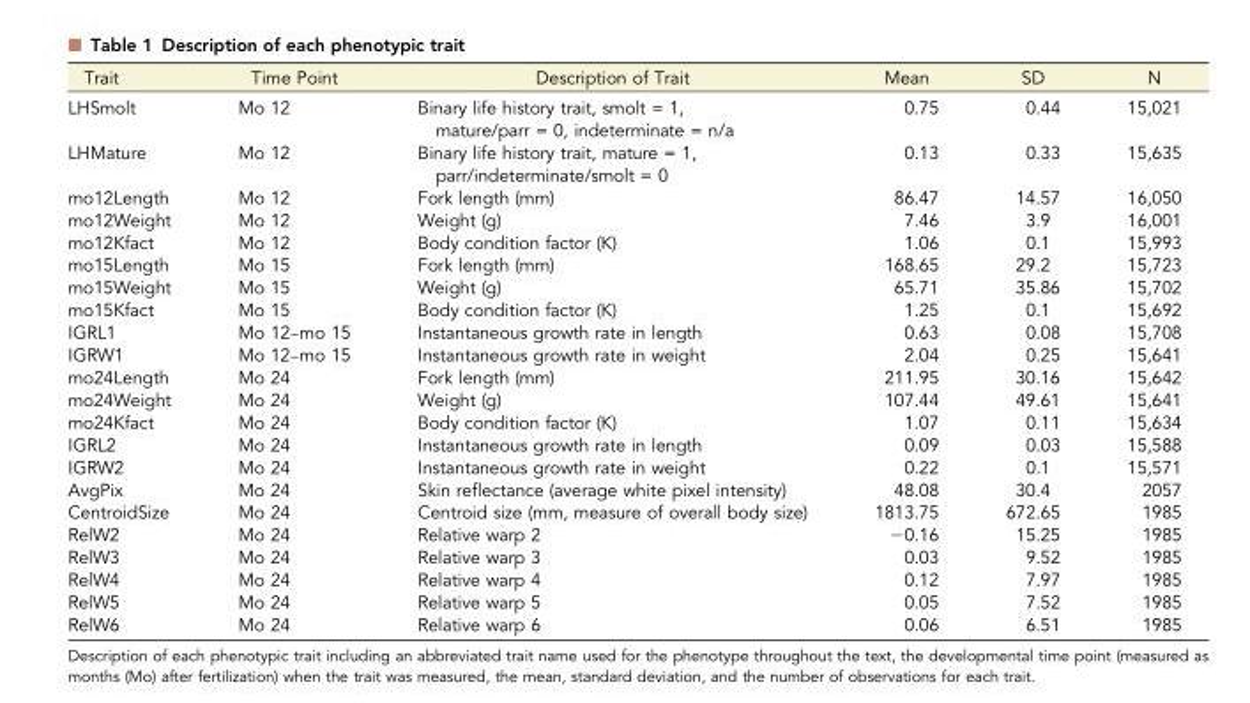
<table><thead><tr><td>Trait</td><td>Time Point</td><td>Description of Trait</td><td>Mean</td><td>SD</td><td>N</td></tr></thead><tbody><tr><td>LHSmolt</td><td>Mo 12</td><td>Binary life history trait, smolt = 1, mature/parr = 0, indeterminate = n/a</td><td>0.75</td><td>0.44</td><td>15,021</td></tr><tr><td>LHMature</td><td>Mo 12</td><td>Binary life history trait, mature = 1, parr/indeterminate/smolt = 0</td><td>0.13</td><td>0.33</td><td>15,635</td></tr><tr><td>mo12Length</td><td>Mo 12</td><td>Fork length (mm)</td><td>86.47</td><td>14.57</td><td>16,050</td></tr><tr><td>mo12Weight</td><td>Mo 12</td><td>Weight (g)</td><td>7.46</td><td>3.9</td><td>16,001</td></tr><tr><td>mo12Kfact</td><td>Mo 12</td><td>Body condition factor (K)</td><td>1.06</td><td>0.1</td><td>15,993</td></tr><tr><td>mo15Length</td><td>Mo 15</td><td>Fork length (mm)</td><td>168.65</td><td>29.2</td><td>15,723</td></tr><tr><td>mo15Weight</td><td>Mo 15</td><td>Weight (g)</td><td>65.71</td><td>35.86</td><td>15,702</td></tr><tr><td>mo15Kfact</td><td>Mo 15</td><td>Body condition factor (K)</td><td>1.25</td><td>0.1</td><td>15,692</td></tr><tr><td>IGRL1</td><td>Mo 12–mo 15</td><td>Instantaneous growth rate in length</td><td>0.63</td><td>0.08</td><td>15,708</td></tr><tr><td>IGRW1</td><td>Mo 12–mo 15</td><td>Instantaneous growth rate in weight</td><td>2.04</td><td>0.25</td><td>15,641</td></tr><tr><td>mo24Length</td><td>Mo 24</td><td>Fork length (mm)</td><td>211.95</td><td>30.16</td><td>15,642</td></tr><tr><td>mo24Weight</td><td>Mo 24</td><td>Weight (g)</td><td>107.44</td><td>49.61</td><td>15,641</td></tr><tr><td>mo24Kfact</td><td>Mo 24</td><td>Body condition factor (K)</td><td>1.07</td><td>0.11</td><td>15,634</td></tr><tr><td>IGRL2</td><td>Mo 24</td><td>Instantaneous growth rate in length</td><td>0.09</td><td>0.03</td><td>15,588</td></tr><tr><td>IGRW2</td><td>Mo 24</td><td>Instantaneous growth rate in weight</td><td>0.22</td><td>0.1</td><td>15,571</td></tr><tr><td>AvgPix</td><td>Mo 24</td><td>Skin reflectance (average white pixel intensity)</td><td>48.08</td><td>30.4</td><td>2057</td></tr><tr><td>CentroidSize</td><td>Mo 24</td><td>Centroid size (mm, measure of overall body size)</td><td>1813.75</td><td>672.65</td><td>1985</td></tr><tr><td>RelW2</td><td>Mo 24</td><td>Relative warp 2</td><td>−0.16</td><td>15.25</td><td>1985</td></tr><tr><td>RelW3</td><td>Mo 24</td><td>Relative warp 3</td><td>0.03</td><td>9.52</td><td>1985</td></tr><tr><td>RelW4</td><td>Mo 24</td><td>Relative warp 4</td><td>0.12</td><td>7.97</td><td>1985</td></tr><tr><td>RelW5</td><td>Mo 24</td><td>Relative warp 5</td><td>0.05</td><td>7.52</td><td>1985</td></tr><tr><td>RelW6</td><td>Mo 24</td><td>Relative warp 6</td><td>0.06</td><td>6.51</td><td>1985</td></tr></tbody></table>